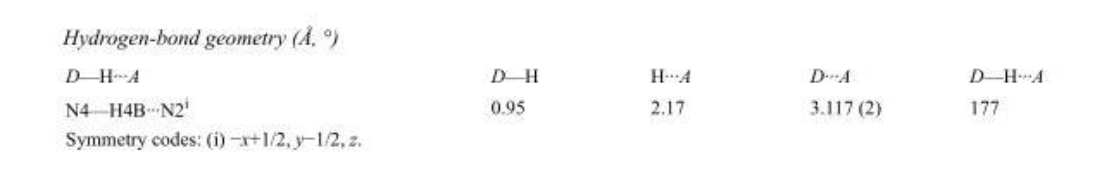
<table><tbody><tr><td>D—H···A</td><td>D—H</td><td>H···A</td><td>D···A</td><td>D—H···A</td></tr><tr><td>N4—H4B···N2<sup>i</sup></td><td>0.95</td><td>2.17</td><td>3.117 (2)</td><td>177</td></tr></tbody></table>